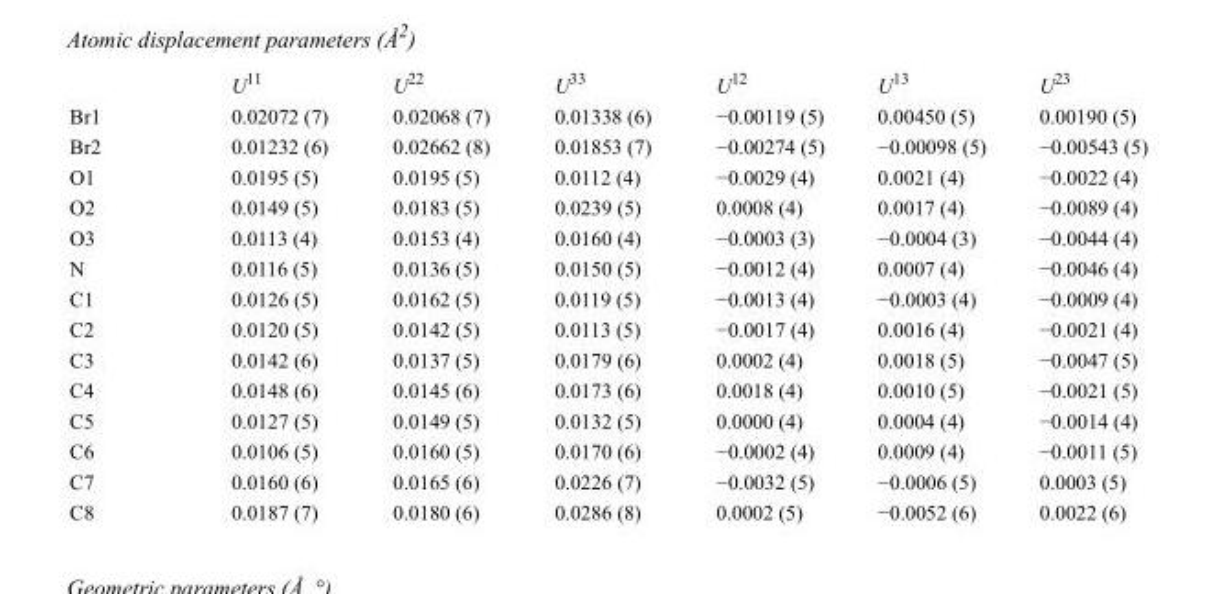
<table><thead><tr><td></td><td>U<sup>11</sup></td><td>U<sup>22</sup></td><td>U<sup>33</sup></td><td>U<sup>12</sup></td><td>U<sup>13</sup></td><td>U<sup>23</sup></td></tr></thead><tbody><tr><td>Br1</td><td>0.02072 (7)</td><td>0.02068 (7)</td><td>0.01338 (6)</td><td>−0.00119 (5)</td><td>0.00450 (5)</td><td>0.00190 (5)</td></tr><tr><td>Br2</td><td>0.01232 (6)</td><td>0.02662 (8)</td><td>0.01853 (7)</td><td>−0.00274 (5)</td><td>−0.00098 (5)</td><td>−0.00543 (5)</td></tr><tr><td>O1</td><td>0.0195 (5)</td><td>0.0195 (5)</td><td>0.0112 (4)</td><td>−0.0029 (4)</td><td>0.0021 (4)</td><td>−0.0022 (4)</td></tr><tr><td>O2</td><td>0.0149 (5)</td><td>0.0183 (5)</td><td>0.0239 (5)</td><td>0.0008 (4)</td><td>0.0017 (4)</td><td>−0.0089 (4)</td></tr><tr><td>O3</td><td>0.0113 (4)</td><td>0.0153 (4)</td><td>0.0160 (4)</td><td>−0.0003 (3)</td><td>−0.0004 (3)</td><td>−0.0044 (4)</td></tr><tr><td>N</td><td>0.0116 (5)</td><td>0.0136 (5)</td><td>0.0150 (5)</td><td>−0.0012 (4)</td><td>0.0007 (4)</td><td>−0.0046 (4)</td></tr><tr><td>C1</td><td>0.0126 (5)</td><td>0.0162 (5)</td><td>0.0119 (5)</td><td>−0.0013 (4)</td><td>−0.0003 (4)</td><td>−0.0009 (4)</td></tr><tr><td>C2</td><td>0.0120 (5)</td><td>0.0142 (5)</td><td>0.0113 (5)</td><td>−0.0017 (4)</td><td>0.0016 (4)</td><td>−0.0021 (4)</td></tr><tr><td>C3</td><td>0.0142 (6)</td><td>0.0137 (5)</td><td>0.0179 (6)</td><td>0.0002 (4)</td><td>0.0018 (5)</td><td>−0.0047 (5)</td></tr><tr><td>C4</td><td>0.0148 (6)</td><td>0.0145 (6)</td><td>0.0173 (6)</td><td>0.0018 (4)</td><td>0.0010 (5)</td><td>−0.0021 (5)</td></tr><tr><td>C5</td><td>0.0127 (5)</td><td>0.0149 (5)</td><td>0.0132 (5)</td><td>0.0000 (4)</td><td>0.0004 (4)</td><td>−0.0014 (4)</td></tr><tr><td>C6</td><td>0.0106 (5)</td><td>0.0160 (5)</td><td>0.0170 (6)</td><td>−0.0002 (4)</td><td>0.0009 (4)</td><td>−0.0011 (5)</td></tr><tr><td>C7</td><td>0.0160 (6)</td><td>0.0165 (6)</td><td>0.0226 (7)</td><td>−0.0032 (5)</td><td>−0.0006 (5)</td><td>0.0003 (5)</td></tr><tr><td>C8</td><td>0.0187 (7)</td><td>0.0180 (6)</td><td>0.0286 (8)</td><td>0.0002 (5)</td><td>−0.0052 (6)</td><td>0.0022 (6)</td></tr></tbody></table>